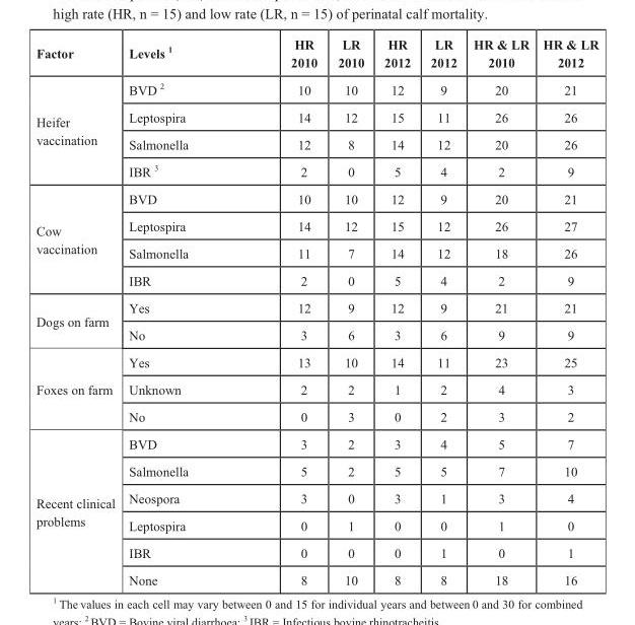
<table><thead><tr><td>Factor</td><td>Levels <sup>1</sup></td><td>HR 2010</td><td>LR 2010</td><td>HR 2012</td><td>LR 2012</td><td>HR &amp; LR 2010</td><td>HR &amp; LR 2012</td></tr></thead><tbody><tr><td rowspan="4">Heifer vaccination</td><td>BVD <sup>2</sup></td><td>10</td><td>10</td><td>12</td><td>9</td><td>20</td><td>21</td></tr><tr><td>Leptospira</td><td>14</td><td>12</td><td>15</td><td>11</td><td>26</td><td>26</td></tr><tr><td>Salmonella</td><td>12</td><td>8</td><td>14</td><td>12</td><td>20</td><td>26</td></tr><tr><td>IBR <sup>3</sup></td><td>2</td><td>0</td><td>5</td><td>4</td><td>2</td><td>9</td></tr><tr><td rowspan="4">Cow vaccination</td><td>BVD</td><td>10</td><td>10</td><td>12</td><td>9</td><td>20</td><td>21</td></tr><tr><td>Leptospira</td><td>14</td><td>12</td><td>15</td><td>12</td><td>26</td><td>27</td></tr><tr><td>Salmonella</td><td>11</td><td>7</td><td>14</td><td>12</td><td>18</td><td>26</td></tr><tr><td>IBR</td><td>2</td><td>0</td><td>5</td><td>4</td><td>2</td><td>9</td></tr><tr><td rowspan="2">Dogs on farm</td><td>Yes</td><td>12</td><td>9</td><td>12</td><td>9</td><td>21</td><td>21</td></tr><tr><td>No</td><td>3</td><td>6</td><td>3</td><td>6</td><td>9</td><td>9</td></tr><tr><td rowspan="3">Foxes on farm</td><td>Yes</td><td>13</td><td>10</td><td>14</td><td>11</td><td>23</td><td>25</td></tr><tr><td>Unknown</td><td>2</td><td>2</td><td>1</td><td>2</td><td>4</td><td>3</td></tr><tr><td>No</td><td>0</td><td>3</td><td>0</td><td>2</td><td>3</td><td>2</td></tr><tr><td rowspan="6">Recent clinical problems</td><td>BVD</td><td>3</td><td>2</td><td>3</td><td>4</td><td>5</td><td>7</td></tr><tr><td>Salmonella</td><td>5</td><td>2</td><td>5</td><td>5</td><td>7</td><td>10</td></tr><tr><td>Neospora</td><td>3</td><td>0</td><td>3</td><td>1</td><td>3</td><td>4</td></tr><tr><td>Leptospira</td><td>0</td><td>1</td><td>0</td><td>0</td><td>1</td><td>0</td></tr><tr><td>IBR</td><td>0</td><td>0</td><td>0</td><td>1</td><td>0</td><td>1</td></tr><tr><td>None</td><td>8</td><td>10</td><td>8</td><td>8</td><td>18</td><td>16</td></tr></tbody></table>